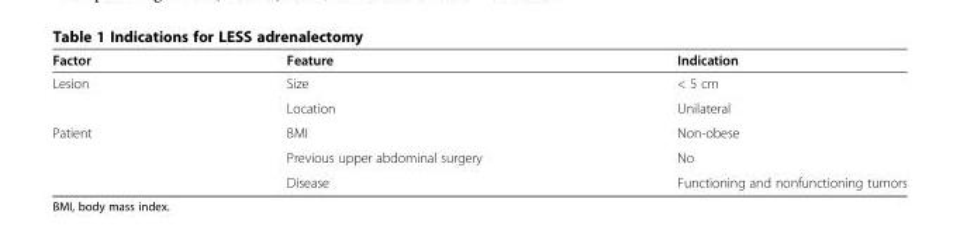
<table><thead><tr><td>Factor</td><td>Feature</td><td>Indication</td></tr></thead><tbody><tr><td rowspan="2">Lesion</td><td>Size</td><td>&lt; 5 cm</td></tr><tr><td>Location</td><td>Unilateral</td></tr><tr><td rowspan="3">Patient</td><td>BMI</td><td>Non-obese</td></tr><tr><td>Previous upper abdominal surgery</td><td>No</td></tr><tr><td>Disease</td><td>Functioning and nonfunctioning tumors</td></tr></tbody></table>